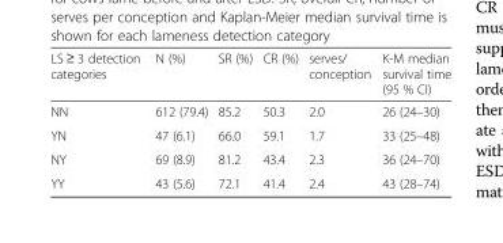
<table><thead><tr><td>LS ≥ 3 detection categories</td><td>N (%)</td><td>SR (%)</td><td>CR (%)</td><td>serves/ conception</td><td>K-M median survival time (95 % CI)</td></tr></thead><tbody><tr><td>NN</td><td>612 (79.4)</td><td>85.2</td><td>50.3</td><td>2.0</td><td>26 (24–30)</td></tr><tr><td>YN</td><td>47 (6.1)</td><td>66.0</td><td>59.1</td><td>1.7</td><td>33 (25–48)</td></tr><tr><td>NY</td><td>69 (8.9)</td><td>81.2</td><td>43.4</td><td>2.3</td><td>36 (24–70)</td></tr><tr><td>YY</td><td>43 (5.6)</td><td>72.1</td><td>41.4</td><td>2.4</td><td>43 (28–74)</td></tr></tbody></table>